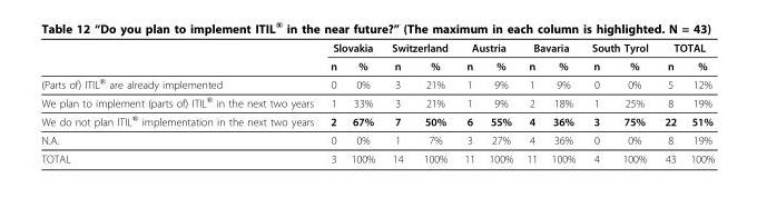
<table><thead><tr><td rowspan="2"></td><td colspan="2">Slovakia</td><td colspan="2">Switzerland</td><td colspan="2">Austria</td><td colspan="2">Bavaria</td><td colspan="2">South Tyrol</td><td colspan="2">TOTAL</td></tr><tr><td>n</td><td>%</td><td>n</td><td>%</td><td>n</td><td>%</td><td>n</td><td>%</td><td>n</td><td>%</td><td>n</td><td>%</td></tr></thead><tbody><tr><td>(Parts of) ITIL<sup>®</sup> are already implemented</td><td>0</td><td>0%</td><td>3</td><td>21%</td><td>1</td><td>9%</td><td>1</td><td>9%</td><td>0</td><td>0%</td><td>5</td><td>12%</td></tr><tr><td>We plan to implement (parts of) ITIL<sup>®</sup> in the next two years</td><td>1</td><td>33%</td><td>3</td><td>21%</td><td>1</td><td>9%</td><td>2</td><td>18%</td><td>1</td><td>25%</td><td>8</td><td>19%</td></tr><tr><td>We do not plan ITIL<sup>®</sup> implementation in the next two years</td><td>2</td><td>67%</td><td>7</td><td>50%</td><td>6</td><td>55%</td><td>4</td><td>36%</td><td>3</td><td>75%</td><td>22</td><td>51%</td></tr><tr><td>N.A.</td><td>0</td><td>0%</td><td>1</td><td>7%</td><td>3</td><td>27%</td><td>4</td><td>36%</td><td>0</td><td>0%</td><td>8</td><td>19%</td></tr><tr><td>TOTAL</td><td>3</td><td>100%</td><td>14</td><td>100%</td><td>11</td><td>100%</td><td>11</td><td>100%</td><td>4</td><td>100%</td><td>43</td><td>100%</td></tr></tbody></table>